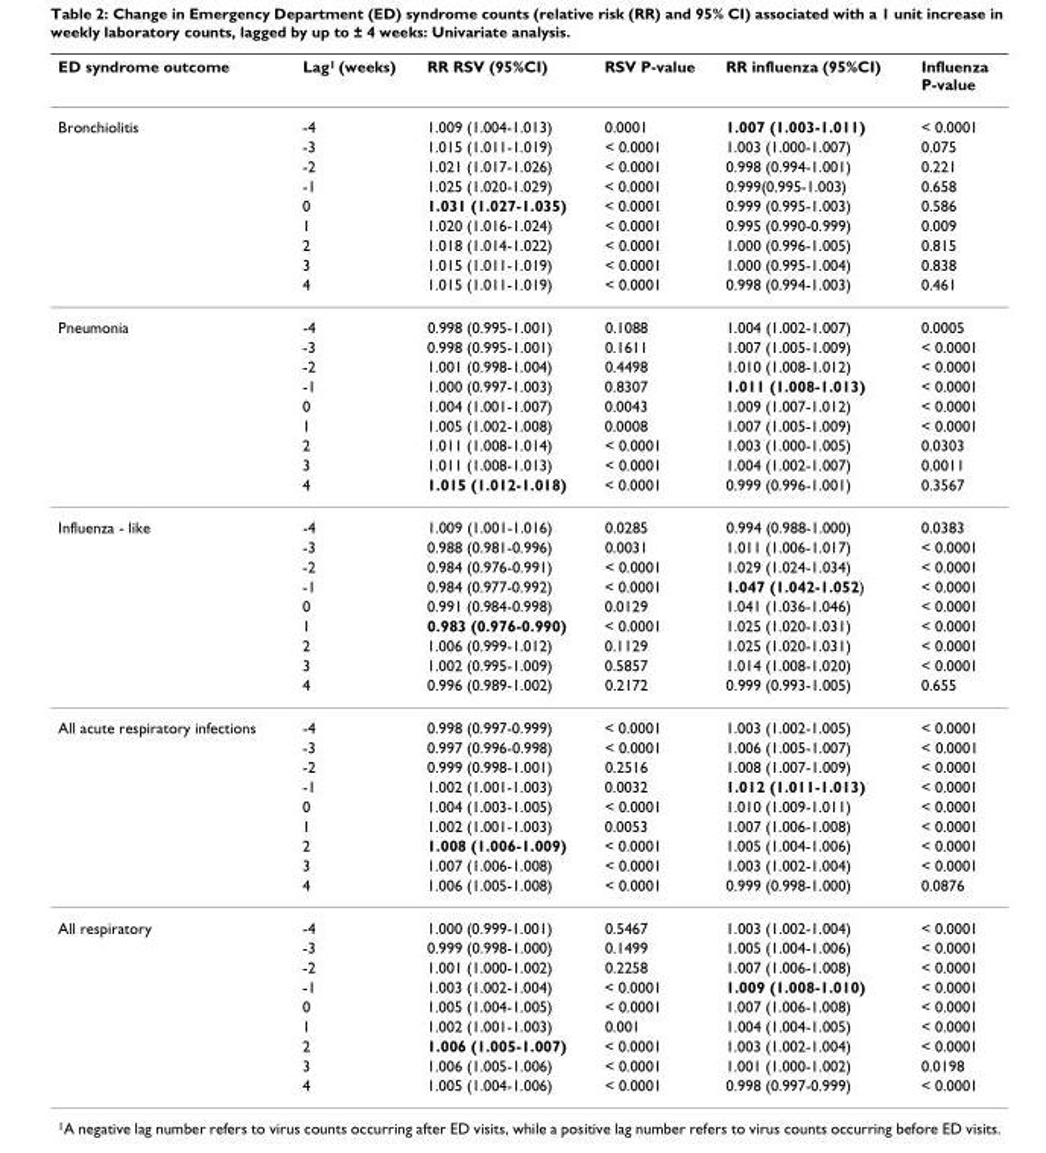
<table><thead><tr><td>ED syndrome outcome</td><td>Lag<sup>1</sup> (weeks)</td><td>RR RSV (95%CI)</td><td>RSV P-value</td><td>RR influenza (95%CI)</td><td>Influenza P-value</td></tr></thead><tbody><tr><td rowspan="9">Bronchiolitis</td><td>-4</td><td>1.009 (1.004-1.013)</td><td>0.0001</td><td>1.007 (1.003-1.011)</td><td>&lt; 0.0001</td></tr><tr><td>-3</td><td>1.015 (1.011-1.019)</td><td>&lt; 0.0001</td><td>1.003 (1.000-1.007)</td><td>0.075</td></tr><tr><td>-2</td><td>1.021 (1.017-1.026)</td><td>&lt; 0.0001</td><td>0.998 (0.994-1.001)</td><td>0.221</td></tr><tr><td>-1</td><td>1.025 (1.020-1.029)</td><td>&lt; 0.0001</td><td>0.999(0.995-1.003)</td><td>0.658</td></tr><tr><td>0</td><td>1.031 (1.027-1.035)</td><td>&lt; 0.0001</td><td>0.999 (0.995-1.003)</td><td>0.586</td></tr><tr><td>1</td><td>1.020 (1.016-1.024)</td><td>&lt; 0.0001</td><td>0.995 (0.990-0.999)</td><td>0.009</td></tr><tr><td>2</td><td>1.018 (1.014-1.022)</td><td>&lt; 0.0001</td><td>1.000 (0.996-1.005)</td><td>0.815</td></tr><tr><td>3</td><td>1.015 (1.011-1.019)</td><td>&lt; 0.0001</td><td>1.000 (0.995-1.004)</td><td>0.838</td></tr><tr><td>4</td><td>1.015 (1.011-1.019)</td><td>&lt; 0.0001</td><td>0.998 (0.994-1.003)</td><td>0.461</td></tr><tr><td rowspan="9">Pneumonia</td><td>-4</td><td>0.998 (0.995-1.001)</td><td>0.1088</td><td>1.004 (1.002-1.007)</td><td>0.0005</td></tr><tr><td>-3</td><td>0.998 (0.995-1.001)</td><td>0.1611</td><td>1.007 (1.005-1.009)</td><td>&lt; 0.0001</td></tr><tr><td>-2</td><td>1.001 (0.998-1.004)</td><td>0.4498</td><td>1.010 (1.008-1.012)</td><td>&lt; 0.0001</td></tr><tr><td>-1</td><td>1.000 (0.997-1.003)</td><td>0.8307</td><td>1.011 (1.008-1.013)</td><td>&lt; 0.0001</td></tr><tr><td>0</td><td>1.004 (1.001-1.007)</td><td>0.0043</td><td>1.009 (1.007-1.012)</td><td>&lt; 0.0001</td></tr><tr><td>1</td><td>1.005 (1.002-1.008)</td><td>0.0008</td><td>1.007 (1.005-1.009)</td><td>&lt; 0.0001</td></tr><tr><td>2</td><td>1.011 (1.008-1.014)</td><td>&lt; 0.0001</td><td>1.003 (1.000-1.005)</td><td>0.0303</td></tr><tr><td>3</td><td>1.011 (1.008-1.013)</td><td>&lt; 0.0001</td><td>1.004 (1.002-1.007)</td><td>0.0011</td></tr><tr><td>4</td><td>1.015 (1.012-1.018)</td><td>&lt; 0.0001</td><td>0.999 (0.996-1.001)</td><td>0.3567</td></tr><tr><td rowspan="9">Influenza - like</td><td>-4</td><td>1.009 (1.001-1.016)</td><td>0.0285</td><td>0.994 (0.988-1.000)</td><td>0.0383</td></tr><tr><td>-3</td><td>0.988 (0.981-0.996)</td><td>0.0031</td><td>1.011 (1.006-1.017)</td><td>&lt; 0.0001</td></tr><tr><td>-2</td><td>0.984 (0.976-0.991)</td><td>&lt; 0.0001</td><td>1.029 (1.024-1.034)</td><td>&lt; 0.0001</td></tr><tr><td>-1</td><td>0.984 (0.977-0.992)</td><td>&lt; 0.0001</td><td>1.047 (1.042-1.052)</td><td>&lt; 0.0001</td></tr><tr><td>0</td><td>0.991 (0.984-0.998)</td><td>0.0129</td><td>1.041 (1.036-1.046)</td><td>&lt; 0.0001</td></tr><tr><td>1</td><td>0.983 (0.976-0.990)</td><td>&lt; 0.0001</td><td>1.025 (1.020-1.031)</td><td>&lt; 0.0001</td></tr><tr><td>2</td><td>1.006 (0.999-1.012)</td><td>0.1129</td><td>1.025 (1.020-1.031)</td><td>&lt; 0.0001</td></tr><tr><td>3</td><td>1.002 (0.995-1.009)</td><td>0.5857</td><td>1.014 (1.008-1.020)</td><td>&lt; 0.0001</td></tr><tr><td>4</td><td>0.996 (0.989-1.002)</td><td>0.2172</td><td>0.999 (0.993-1.005)</td><td>0.655</td></tr><tr><td rowspan="9">All acute respiratory infections</td><td>-4</td><td>0.998 (0.997-0.999)</td><td>&lt; 0.0001</td><td>1.003 (1.002-1.005)</td><td>&lt; 0.0001</td></tr><tr><td>-3</td><td>0.997 (0.996-0.998)</td><td>&lt; 0.0001</td><td>1.006 (1.005-1.007)</td><td>&lt; 0.0001</td></tr><tr><td>-2</td><td>0.999 (0.998-1.001)</td><td>0.2516</td><td>1.008 (1.007-1.009)</td><td>&lt; 0.0001</td></tr><tr><td>-1</td><td>1.002 (1.001-1.003)</td><td>0.0032</td><td>1.012 (1.011-1.013)</td><td>&lt; 0.0001</td></tr><tr><td>0</td><td>1.004 (1.003-1.005)</td><td>&lt; 0.0001</td><td>1.010 (1.009-1.011)</td><td>&lt; 0.0001</td></tr><tr><td>1</td><td>1.002 (1.001-1.003)</td><td>0.0053</td><td>1.007 (1.006-1.008)</td><td>&lt; 0.0001</td></tr><tr><td>2</td><td>1.008 (1.006-1.009)</td><td>&lt; 0.0001</td><td>1.005 (1.004-1.006)</td><td>&lt; 0.0001</td></tr><tr><td>3</td><td>1.007 (1.006-1.008)</td><td>&lt; 0.0001</td><td>1.003 (1.002-1.004)</td><td>&lt; 0.0001</td></tr><tr><td>4</td><td>1.006 (1.005-1.008)</td><td>&lt; 0.0001</td><td>0.999 (0.998-1.000)</td><td>0.0876</td></tr><tr><td rowspan="9">All respiratory</td><td>-4</td><td>1.000 (0.999-1.001)</td><td>0.5467</td><td>1.003 (1.002-1.004)</td><td>&lt; 0.0001</td></tr><tr><td>-3</td><td>0.999 (0.998-1.000)</td><td>0.1499</td><td>1.005 (1.004-1.006)</td><td>&lt; 0.0001</td></tr><tr><td>-2</td><td>1.001 (1.000-1.002)</td><td>0.2258</td><td>1.007 (1.006-1.008)</td><td>&lt; 0.0001</td></tr><tr><td>-1</td><td>1.003 (1.002-1.004)</td><td>&lt; 0.0001</td><td>1.009 (1.008-1.010)</td><td>&lt; 0.0001</td></tr><tr><td>0</td><td>1.005 (1.004-1.005)</td><td>&lt; 0.0001</td><td>1.007 (1.006-1.008)</td><td>&lt; 0.0001</td></tr><tr><td>1</td><td>1.002 (1.001-1.003)</td><td>0.001</td><td>1.004 (1.004-1.005)</td><td>&lt; 0.0001</td></tr><tr><td>2</td><td>1.006 (1.005-1.007)</td><td>&lt; 0.0001</td><td>1.003 (1.002-1.004)</td><td>&lt; 0.0001</td></tr><tr><td>3</td><td>1.006 (1.005-1.006)</td><td>&lt; 0.0001</td><td>1.001 (1.000-1.002)</td><td>0.0198</td></tr><tr><td>4</td><td>1.005 (1.004-1.006)</td><td>&lt; 0.0001</td><td>0.998 (0.997-0.999)</td><td>&lt; 0.0001</td></tr></tbody></table>